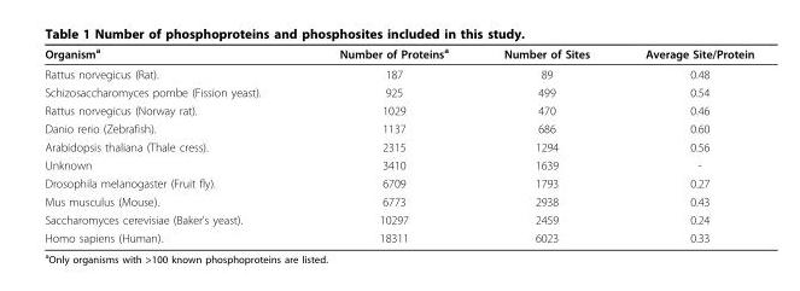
<table><thead><tr><td>Organism<sup>a</sup></td><td>Number of Proteins<sup>a</sup></td><td>Number of Sites</td><td>Average Site/Protein</td></tr></thead><tbody><tr><td>Rattus norvegicus (Rat).</td><td>187</td><td>89</td><td>0.48</td></tr><tr><td>Schizosaccharomyces pombe (Fission yeast).</td><td>925</td><td>499</td><td>0.54</td></tr><tr><td>Rattus norvegicus (Norway rat).</td><td>1029</td><td>470</td><td>0.46</td></tr><tr><td>Danio rerio (Zebrafish).</td><td>1137</td><td>686</td><td>0.60</td></tr><tr><td>Arabidopsis thaliana (Thale cress).</td><td>2315</td><td>1294</td><td>0.56</td></tr><tr><td>Unknown</td><td>3410</td><td>1639</td><td>-</td></tr><tr><td>Drosophila melanogaster (Fruit fly).</td><td>6709</td><td>1793</td><td>0.27</td></tr><tr><td>Mus musculus (Mouse).</td><td>6773</td><td>2938</td><td>0.43</td></tr><tr><td>Saccharomyces cerevisiae (Baker’s yeast).</td><td>10297</td><td>2459</td><td>0.24</td></tr><tr><td>Homo sapiens (Human).</td><td>18311</td><td>6023</td><td>0.33</td></tr></tbody></table>